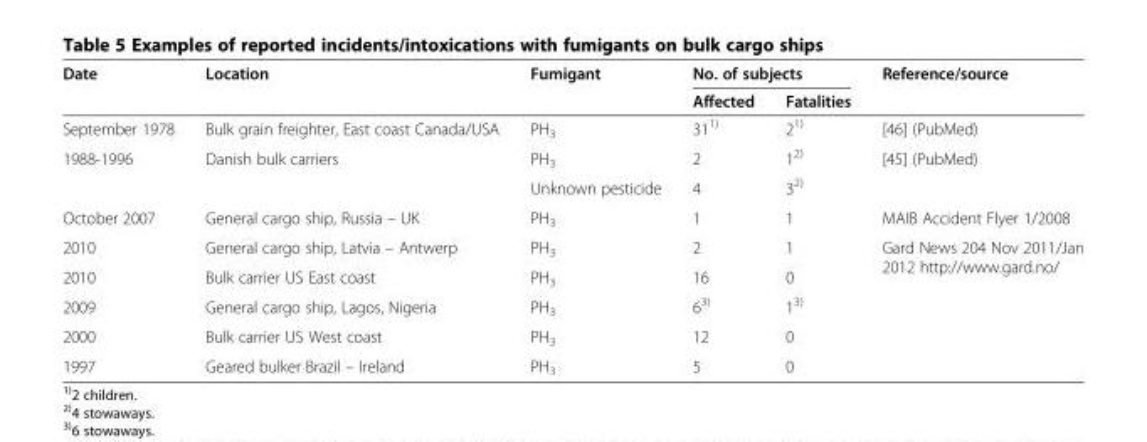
<table><thead><tr><td rowspan="2">Date</td><td rowspan="2">Location</td><td rowspan="2">Fumigant</td><td colspan="2">No. of subjects</td><td rowspan="2">Reference/source</td></tr><tr><td>Affected</td><td>Fatalities</td></tr></thead><tbody><tr><td>September 1978</td><td>Bulk grain freighter, East coast Canada/USA</td><td>PH<sub>3</sub></td><td>31<sup>1)</sup></td><td>2<sup>1)</sup></td><td>[46] (PubMed)</td></tr><tr><td rowspan="2">1988-1996</td><td rowspan="2">Danish bulk carriers</td><td>PH<sub>3</sub></td><td>2</td><td>1<sup>2)</sup></td><td rowspan="2">[45] (PubMed)</td></tr><tr><td>Unknown pesticide</td><td>4</td><td>3<sup>2)</sup></td></tr><tr><td>October 2007</td><td>General cargo ship, Russia – UK</td><td>PH<sub>3</sub></td><td>1</td><td>1</td><td>MAIB Accident Flyer 1/2008</td></tr><tr><td>2010</td><td>General cargo ship, Latvia – Antwerp</td><td>PH<sub>3</sub></td><td>2</td><td>1</td><td rowspan="5">Gard News 204 Nov 2011/Jan 2012 http://www.gard.no/</td></tr><tr><td>2010</td><td>Bulk carrier US East coast</td><td>PH<sub>3</sub></td><td>16</td><td>0</td></tr><tr><td>2009</td><td>General cargo ship, Lagos, Nigeria</td><td>PH<sub>3</sub></td><td>6<sup>3)</sup></td><td>1<sup>3)</sup></td></tr><tr><td>2000</td><td>Bulk carrier US West coast</td><td>PH<sub>3</sub></td><td>12</td><td>0</td></tr><tr><td>1997</td><td>Geared bulker Brazil – Ireland</td><td>PH<sub>3</sub></td><td>5</td><td>0</td></tr></tbody></table>